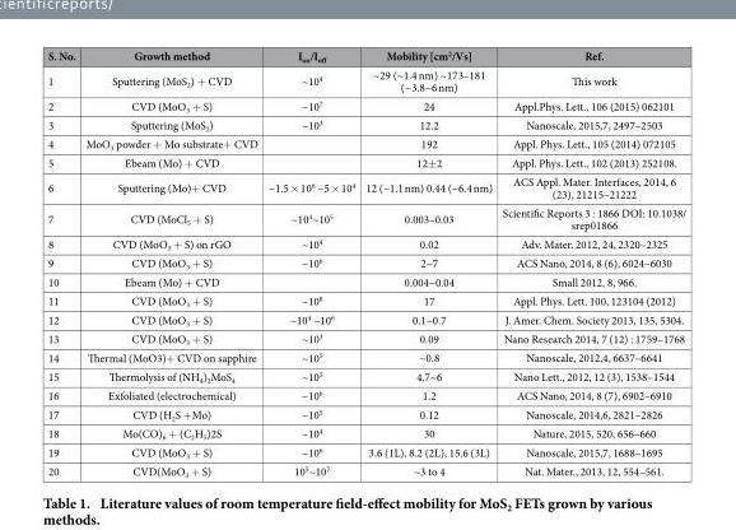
<table><thead><tr><td>S. No.</td><td>Growth method</td><td>I<sub>on</sub>/I<sub>off</sub></td><td>Mobility [cm<sup>2</sup>/Vs]</td><td>Ref.</td></tr></thead><tbody><tr><td>1</td><td>Sputtering (MoS<sub>2</sub>) + CVD</td><td>~10<sup>4</sup></td><td>~29 (~1.4 nm) ~173–181 (~3.8~6 nm)</td><td>This work</td></tr><tr><td>2</td><td>CVD (MoO<sub>3</sub> + S)</td><td>~10<sup>7</sup></td><td>24</td><td>Appl.Phys. Lett., 106 (2015) 062101</td></tr><tr><td>3</td><td>Sputtering (MoS<sub>2</sub>)</td><td>~10<sup>3</sup></td><td>12.2</td><td>Nanoscale, 2015,7, 2497–2503</td></tr><tr><td>4</td><td>MoO<sub>3</sub> powder + Mo substrate+ CVD</td><td></td><td>192</td><td>Appl. Phys. Lett., 105 (2014) 072105</td></tr><tr><td>5</td><td>Ebeam (Mo) + CVD</td><td></td><td>12± 2</td><td>Appl. Phys. Lett., 102 (2013) 252108.</td></tr><tr><td>6</td><td>Sputtering (Mo)+ CVD</td><td>~1.5 × 10<sup>6</sup> ~5 × 10<sup>4</sup></td><td>12 (~1.1 nm) 0.44 (~6.4 nm)</td><td>ACS Appl. Mater. Interfaces, 2014, 6 (23), 21215–21222</td></tr><tr><td>7</td><td>CVD (MoCl<sub>5</sub> + S)</td><td>~10<sup>4</sup>~10<sup>5</sup></td><td>0.003–0.03</td><td>Scientific Reports 3 : 1866 DOI: 10.1038/ srep01866</td></tr><tr><td>8</td><td>CVD (MoO<sub>3</sub> + S) on rGO</td><td>~10<sup>4</sup></td><td>0.02</td><td>Adv. Mater. 2012, 24, 2320–2325</td></tr><tr><td>9</td><td>CVD (MoO<sub>3</sub> + S)</td><td>~10<sup>6</sup></td><td>2~7</td><td>ACS Nano, 2014, 8 (6), 6024–6030</td></tr><tr><td>10</td><td>Ebeam (Mo) + CVD</td><td></td><td>0.004~0.04</td><td>Small 2012, 8, 966.</td></tr><tr><td>11</td><td>CVD (MoO<sub>3</sub> + S)</td><td>~10<sup>8</sup></td><td>17</td><td>Appl. Phys. Lett. 100, 123104 (2012)</td></tr><tr><td>12</td><td>CVD (MoO<sub>3</sub> + S)</td><td>~10<sup>4</sup> ~10<sup>6</sup></td><td>0.1~0.7</td><td>J. Amer. Chem. Society 2013, 135, 5304.</td></tr><tr><td>13</td><td>CVD (MoO<sub>3</sub> + S)</td><td>~10<sup>3</sup></td><td>0.09</td><td>Nano Research 2014, 7 (12) : 1759–1768</td></tr><tr><td>14</td><td>Thermal (MoO3)+ CVD on sapphire</td><td>~10<sup>5</sup></td><td>~0.8</td><td>Nanoscale, 2012,4, 6637–6641</td></tr><tr><td>15</td><td>Thermolysis of (NH<sub>4</sub>)<sub>2</sub>MoS<sub>4</sub></td><td>~10<sup>5</sup></td><td>4.7~6</td><td>Nano Lett., 2012, 12 (3), 1538–1544</td></tr><tr><td>16</td><td>Exfoliated (electrochemical)</td><td>~10<sup>6</sup></td><td>1.2</td><td>ACS Nano, 2014, 8 (7), 6902–6910</td></tr><tr><td>17</td><td>CVD (H<sub>2</sub>S + Mo)</td><td>~10<sup>5</sup></td><td>0.12</td><td>Nanoscale, 2014,6, 2821–2826</td></tr><tr><td>18</td><td>Mo(CO)<sub>6</sub> + (C<sub>2</sub>H<sub>5</sub>)2S</td><td>~10<sup>4</sup></td><td>30</td><td>Nature, 2015, 520, 656–660</td></tr><tr><td>19</td><td>CVD (MoO<sub>3</sub> + S)</td><td>~10<sup>6</sup></td><td>3.6 (1L), 8.2 (2L), 15.6 (3L)</td><td>Nanoscale, 2015,7, 1688–1695</td></tr><tr><td>20</td><td>CVD(MoO<sub>3</sub> + S)</td><td>10<sup>5</sup>~10<sup>7</sup></td><td>~3 to 4</td><td>Nat. Mater., 2013, 12, 554–561.</td></tr></tbody></table>